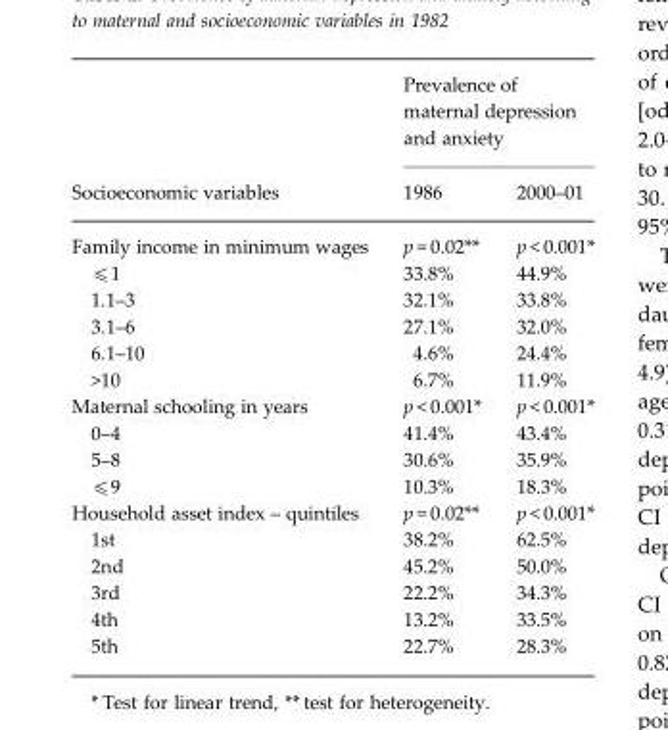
<table><thead><tr><td rowspan="2">Socioeconomic variables</td><td colspan="2">Prevalence of maternal depression and anxiety</td></tr><tr><td>1986</td><td>2000–01</td></tr></thead><tbody><tr><td>Family income in minimum wages</td><td>p = 0.02**</td><td>p &lt; 0.001*</td></tr><tr><td>⩽1</td><td>33.8%</td><td>44.9%</td></tr><tr><td>1.1–3</td><td>32.1%</td><td>33.8%</td></tr><tr><td>3.1–6</td><td>27.1%</td><td>32.0%</td></tr><tr><td>6.1–10</td><td>4.6%</td><td>24.4%</td></tr><tr><td>&gt;10</td><td>6.7%</td><td>11.9%</td></tr><tr><td>Maternal schooling in years</td><td>p &lt; 0.001*</td><td>p &lt; 0.001*</td></tr><tr><td>0–4</td><td>41.4%</td><td>43.4%</td></tr><tr><td>5–8</td><td>30.6%</td><td>35.9%</td></tr><tr><td>⩽9</td><td>10.3%</td><td>18.3%</td></tr><tr><td>Household asset index – quintiles</td><td>p = 0.02**</td><td>p &lt; 0.001*</td></tr><tr><td>1st</td><td>38.2%</td><td>62.5%</td></tr><tr><td>2nd</td><td>45.2%</td><td>50.0%</td></tr><tr><td>3rd</td><td>22.2%</td><td>34.3%</td></tr><tr><td>4th</td><td>13.2%</td><td>33.5%</td></tr><tr><td>5th</td><td>22.7%</td><td>28.3%</td></tr></tbody></table>